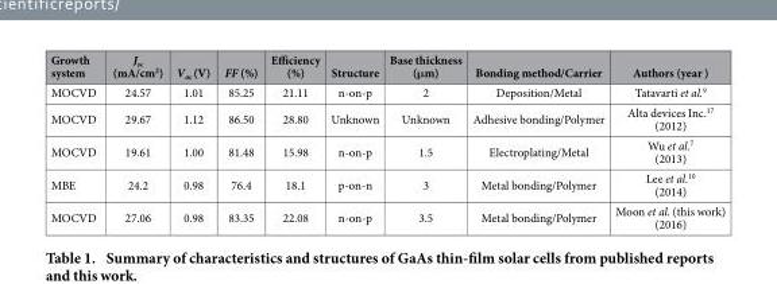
<table><thead><tr><td>Growth system</td><td>J<sub>sc</sub> (mA/cm<sup>2</sup>)</td><td>V<sub>oc</sub> (V)</td><td>FF (%)</td><td>Efficiency (%)</td><td>Structure</td><td>Base thickness (μm)</td><td>Bonding method/Carrier</td><td>Authors (year )</td></tr></thead><tbody><tr><td>MOCVD</td><td>24.57</td><td>1.01</td><td>85.25</td><td>21.11</td><td>n-on-p</td><td>2</td><td>Deposition/Metal</td><td>Tatavarti et al.<sup>9</sup></td></tr><tr><td>MOCVD</td><td>29.67</td><td>1.12</td><td>86.50</td><td>28.80</td><td>Unknown</td><td>Unknown</td><td>Adhesive bonding/Polymer</td><td>Alta devices Inc.<sup>17</sup> (2012)</td></tr><tr><td>MOCVD</td><td>19.61</td><td>1.00</td><td>81.48</td><td>15.98</td><td>n-on-p</td><td>1.5</td><td>Electroplating/Metal</td><td>Wu et al.<sup>7</sup> (2013)</td></tr><tr><td>MBE</td><td>24.2</td><td>0.98</td><td>76.4</td><td>18.1</td><td>p-on-n</td><td>3</td><td>Metal bonding/Polymer</td><td>Lee et al.<sup>10</sup> (2014)</td></tr><tr><td>MOCVD</td><td>27.06</td><td>0.98</td><td>83.35</td><td>22.08</td><td>n-on-p</td><td>3.5</td><td>Metal bonding/Polymer</td><td>Moon et al. (this work) (2016)</td></tr></tbody></table>